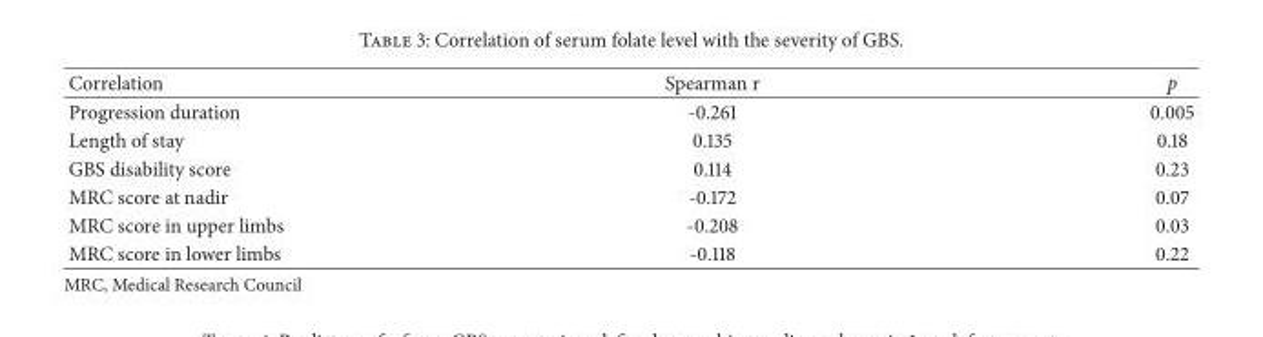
<table><thead><tr><td>Correlation</td><td>Spearman r</td><td>p</td></tr></thead><tbody><tr><td>Progression duration</td><td>-0.261</td><td>0.005</td></tr><tr><td>Length of stay</td><td>0.135</td><td>0.18</td></tr><tr><td>GBS disability score</td><td>0.114</td><td>0.23</td></tr><tr><td>MRC score at nadir</td><td>-0.172</td><td>0.07</td></tr><tr><td>MRC score in upper limbs</td><td>-0.208</td><td>0.03</td></tr><tr><td>MRC score in lower limbs</td><td>-0.118</td><td>0.22</td></tr></tbody></table>